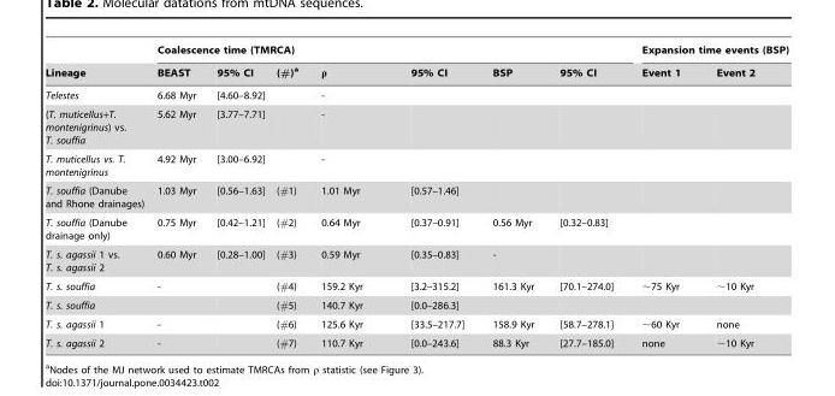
<table><thead><tr><td rowspan="2">Lineage</td><td colspan="7">Coalescence time (TMRCA)</td><td colspan="2">Expansion time events (BSP)</td></tr><tr><td>BEAST</td><td>95% CI</td><td>(#)<sup>a</sup></td><td>ρ</td><td>95% CI</td><td>BSP</td><td>95% CI</td><td>Event 1</td><td>Event 2</td></tr></thead><tbody><tr><td>Telestes</td><td>6.68 Myr</td><td>[4.60–8.92]</td><td></td><td>-</td><td></td><td></td><td></td><td></td><td></td></tr><tr><td>(T. muticellus+T. montenigrinus) vs. T. souffia</td><td>5.62 Myr</td><td>[3.77–7.71]</td><td></td><td>-</td><td></td><td></td><td></td><td></td><td></td></tr><tr><td>T. muticellus vs. T. montenigrinus</td><td>4.92 Myr</td><td>[3.00–6.92]</td><td></td><td>-</td><td></td><td></td><td></td><td></td><td></td></tr><tr><td>T. souffia (Danube and Rhone drainages)</td><td>1.03 Myr</td><td>[0.56–1.63]</td><td>(#1)</td><td>1.01 Myr</td><td>[0.57–1.46]</td><td></td><td></td><td></td><td></td></tr><tr><td>T. souffia (Danube drainage only)</td><td>0.75 Myr</td><td>[0.42–1.21]</td><td>(#2)</td><td>0.64 Myr</td><td>[0.37–0.91]</td><td>0.56 Myr</td><td>[0.32–0.83]</td><td></td><td></td></tr><tr><td>T. s. agassii 1 vs. T. s. agassii 2</td><td>0.60 Myr</td><td>[0.28–1.00]</td><td>(#3)</td><td>0.59 Myr</td><td>[0.35–0.83]</td><td>-</td><td></td><td></td><td></td></tr><tr><td>T. s. souffia</td><td>-</td><td></td><td>(#4)</td><td>159.2 Kyr</td><td>[3.2–315.2]</td><td>161.3 Kyr</td><td>[70.1–274.0]</td><td>∼75 Kyr</td><td>∼10 Kyr</td></tr><tr><td>T. s. souffia</td><td></td><td></td><td>(#5)</td><td>140.7 Kyr</td><td>[0.0–286.3]</td><td></td><td></td><td></td><td></td></tr><tr><td>T. s. agassii 1</td><td>-</td><td></td><td>(#6)</td><td>125.6 Kyr</td><td>[33.5–217.7]</td><td>158.9 Kyr</td><td>[58.7–278.1]</td><td>∼60 Kyr</td><td>none</td></tr><tr><td>T. s. agassii 2</td><td>-</td><td></td><td>(#7)</td><td>110.7 Kyr</td><td>[0.0–243.6]</td><td>88.3 Kyr</td><td>[27.7–185.0]</td><td>none</td><td>∼10 Kyr</td></tr></tbody></table>